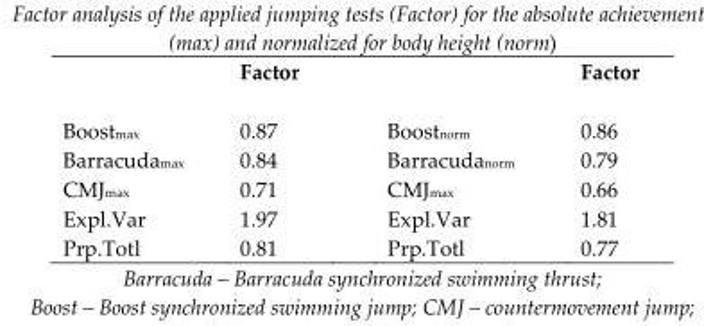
<table><thead><tr><td></td><td>Factor</td><td></td><td>Factor</td></tr></thead><tbody><tr><td>Boost<sub>max</sub></td><td>0.87</td><td>Boost<sub>norm</sub></td><td>0.86</td></tr><tr><td>Barracuda<sub>max</sub></td><td>0.84</td><td>Barracuda<sub>norm</sub></td><td>0.79</td></tr><tr><td>CMJ<sub>max</sub></td><td>0.71</td><td>CMJ<sub>max</sub></td><td>0.66</td></tr><tr><td>Expl.Var</td><td>1.97</td><td>Expl.Var</td><td>1.81</td></tr><tr><td>Prp.Totl</td><td>0.81</td><td>Prp.Totl</td><td>0.77</td></tr></tbody></table>